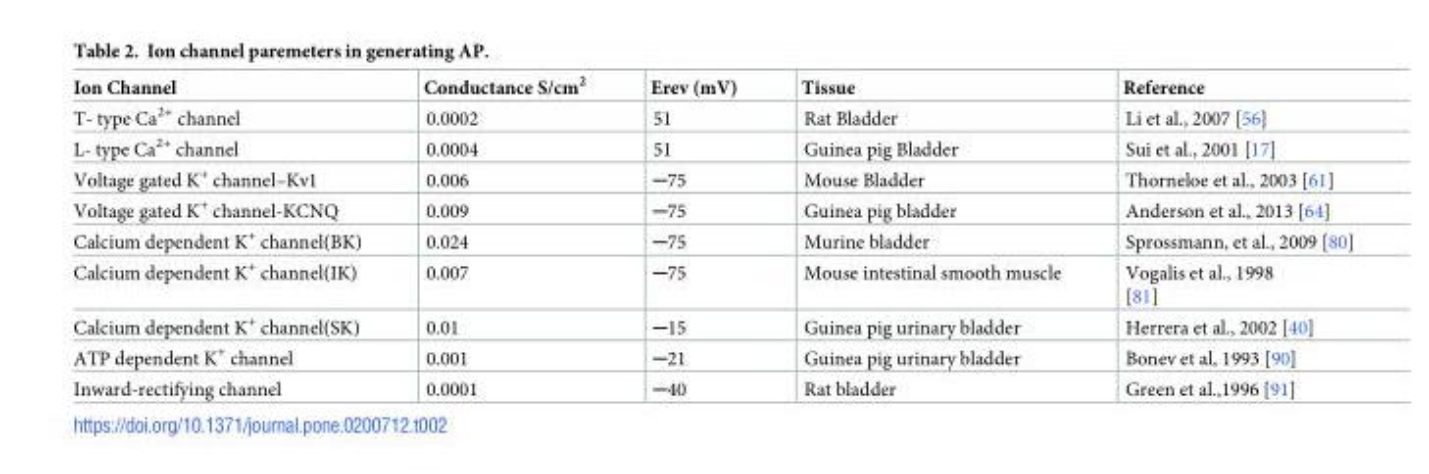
<table><thead><tr><td>Ion Channel</td><td>Conductance S/cm<sup>2</sup></td><td>Erev (mV)</td><td>Tissue</td><td>Reference</td></tr></thead><tbody><tr><td>T- type Ca<sup>2+</sup> channel</td><td>0.0002</td><td>51</td><td>Rat Bladder</td><td>Li et al., 2007 [56]</td></tr><tr><td>L- type Ca<sup>2+</sup> channel</td><td>0.0004</td><td>51</td><td>Guinea pig Bladder</td><td>Sui et al., 2001 [17]</td></tr><tr><td>Voltage gated K<sup>+</sup> channel–Kv1</td><td>0.006</td><td>─75</td><td>Mouse Bladder</td><td>Thorneloe et al., 2003 [61]</td></tr><tr><td>Voltage gated K<sup>+</sup> channel-KCNQ</td><td>0.009</td><td>─75</td><td>Guinea pig bladder</td><td>Anderson et al., 2013 [64]</td></tr><tr><td>Calcium dependent K<sup>+</sup> channel(BK)</td><td>0.024</td><td>─75</td><td>Murine bladder</td><td>Sprossmann, et al., 2009 [80]</td></tr><tr><td>Calcium dependent K<sup>+</sup> channel(IK)</td><td>0.007</td><td>─75</td><td>Mouse intestinal smooth muscle</td><td>Vogalis et al., 1998 [81]</td></tr><tr><td>Calcium dependent K<sup>+</sup> channel(SK)</td><td>0.01</td><td>─15</td><td>Guinea pig urinary bladder</td><td>Herrera et al., 2002 [40]</td></tr><tr><td>ATP dependent K<sup>+</sup> channel</td><td>0.001</td><td>─21</td><td>Guinea pig urinary bladder</td><td>Bonev et al, 1993 [90]</td></tr><tr><td>Inward-rectifying channel</td><td>0.0001</td><td>─40</td><td>Rat bladder</td><td>Green et al.,1996 [91]</td></tr></tbody></table>